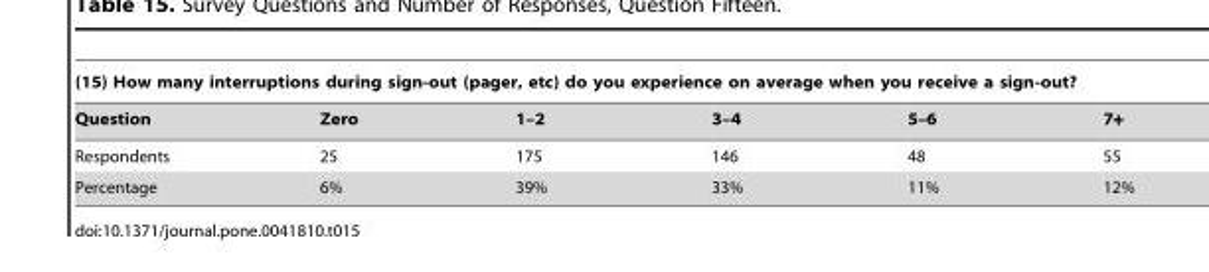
<table><thead><tr><td colspan="6">(15) How many interruptions during sign-out (pager, etc) do you experience on average when you receive a sign-out?</td></tr><tr><td>Question</td><td>Zero</td><td>1–2</td><td>3–4</td><td>5–6</td><td>7+</td></tr></thead><tbody><tr><td>Respondents</td><td>25</td><td>175</td><td>146</td><td>48</td><td>55</td></tr><tr><td>Percentage</td><td>6%</td><td>39%</td><td>33%</td><td>11%</td><td>12%</td></tr></tbody></table>